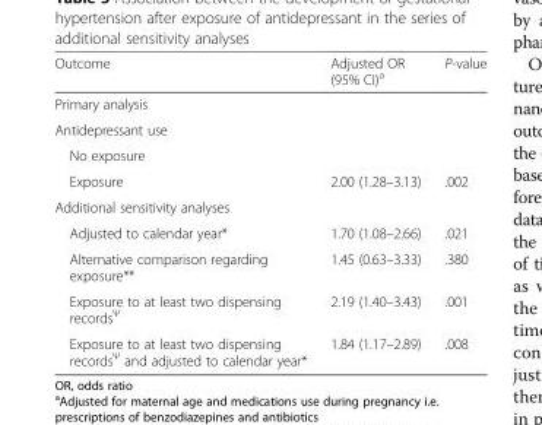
<table><thead><tr><td>Outcome</td><td>Adjusted OR (95% CI)<sup>a</sup></td><td>P-value</td></tr></thead><tbody><tr><td colspan="3">Primary analysis</td></tr><tr><td colspan="3">Antidepressant use</td></tr><tr><td colspan="3">No exposure</td></tr><tr><td>Exposure</td><td>2.00 (1.28–3.13)</td><td>.002</td></tr><tr><td colspan="3">Additional sensitivity analyses</td></tr><tr><td>Adjusted to calendar year*</td><td>1.70 (1.08–2.66)</td><td>.021</td></tr><tr><td>Alternative comparison regarding exposure**</td><td>1.45 (0.63–3.33)</td><td>.380</td></tr><tr><td>Exposure to at least two dispensing records<sup>Ψ</sup></td><td>2.19 (1.40–3.43)</td><td>.001</td></tr><tr><td>Exposure to at least two dispensing records<sup>Ψ</sup> and adjusted to calendar year*</td><td>1.84 (1.17–2.89)</td><td>.008</td></tr></tbody></table>